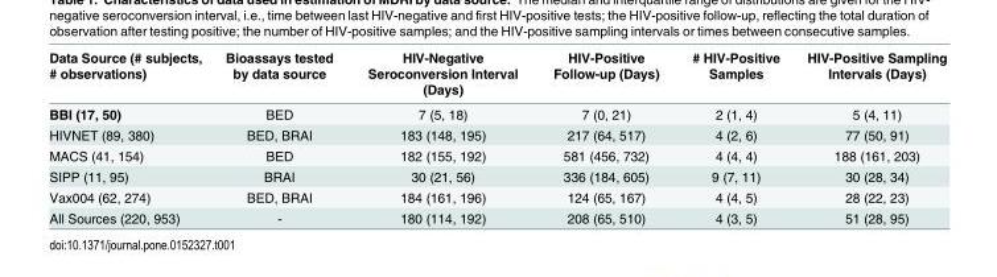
<table><thead><tr><td>Data Source (# subjects, # observations)</td><td>Bioassays tested by data source</td><td>HIV-Negative Seroconversion Interval (Days)</td><td>HIV-Positive Follow-up (Days)</td><td># HIV-Positive Samples</td><td>HIV-Positive Sampling Intervals (Days)</td></tr></thead><tbody><tr><td>BBI (17, 50)</td><td>BED</td><td>7 (5, 18)</td><td>7 (0, 21)</td><td>2 (1, 4)</td><td>5 (4, 11)</td></tr><tr><td>HIVNET (89, 380)</td><td>BED, BRAI</td><td>183 (148, 195)</td><td>217 (64, 517)</td><td>4 (2, 6)</td><td>77 (50, 91)</td></tr><tr><td>MACS (41, 154)</td><td>BED</td><td>182 (155, 192)</td><td>581 (456, 732)</td><td>4 (4, 4)</td><td>188 (161, 203)</td></tr><tr><td>SIPP (11, 95)</td><td>BRAI</td><td>30 (21, 56)</td><td>336 (184, 605)</td><td>9 (7, 11)</td><td>30 (28, 34)</td></tr><tr><td>Vax004 (62, 274)</td><td>BED, BRAI</td><td>184 (161, 196)</td><td>124 (65, 167)</td><td>4 (4, 5)</td><td>28 (22, 23)</td></tr><tr><td>All Sources (220, 953)</td><td>-</td><td>180 (114, 192)</td><td>208 (65, 510)</td><td>4 (3, 5)</td><td>51 (28, 95)</td></tr></tbody></table>